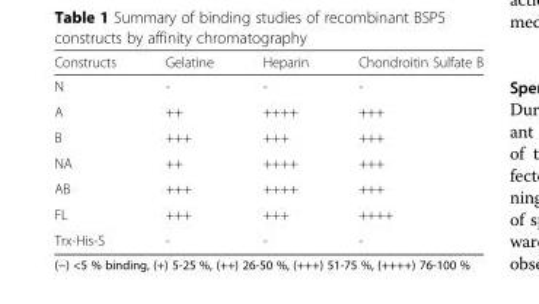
<table><thead><tr><td>Constructs</td><td>Gelatine</td><td>Heparin</td><td>Chondroitin Sulfate B</td></tr></thead><tbody><tr><td>N</td><td>-</td><td>-</td><td>-</td></tr><tr><td>A</td><td>++</td><td>++++</td><td>+++</td></tr><tr><td>B</td><td>+++</td><td>+++</td><td>+++</td></tr><tr><td>NA</td><td>++</td><td>++++</td><td>+++</td></tr><tr><td>AB</td><td>+++</td><td>++++</td><td>+++</td></tr><tr><td>FL</td><td>+++</td><td>+++</td><td>++++</td></tr><tr><td>Trx-His-S</td><td>-</td><td>-</td><td>-</td></tr></tbody></table>